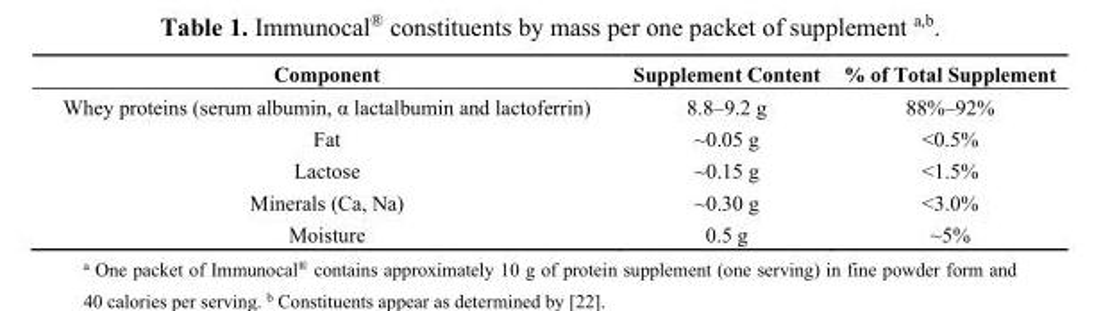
<table><thead><tr><td>Component</td><td>Supplement Content</td><td>% of Total Supplement</td></tr></thead><tbody><tr><td>Whey proteins (serum albumin, α lactalbumin and lactoferrin)</td><td>8.8–9.2 g</td><td>88%–92%</td></tr><tr><td>Fat</td><td>~0.05 g</td><td>&lt;0.5%</td></tr><tr><td>Lactose</td><td>~0.15 g</td><td>&lt;1.5%</td></tr><tr><td>Minerals (Ca, Na)</td><td>~0.30 g</td><td>&lt;3.0%</td></tr><tr><td>Moisture</td><td>0.5 g</td><td>~5%</td></tr></tbody></table>